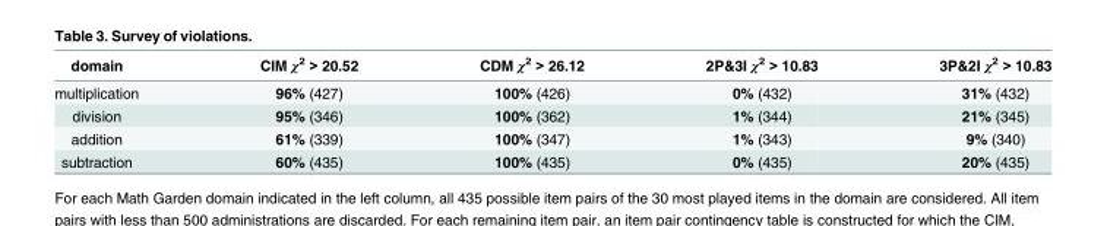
<table><thead><tr><td>domain</td><td>CIM χ<sup>2</sup> &gt; 20.52</td><td>CDM χ<sup>2</sup> &gt; 26.12</td><td>2P&amp;3I χ<sup>2</sup> &gt; 10.83</td><td>3P&amp;2I χ<sup>2</sup> &gt; 10.83</td></tr></thead><tbody><tr><td>multiplication</td><td>96% (427)</td><td>100% (426)</td><td>0% (432)</td><td>31% (432)</td></tr><tr><td>division</td><td>95% (346)</td><td>100% (362)</td><td>1% (344)</td><td>21% (345)</td></tr><tr><td>addition</td><td>61% (339)</td><td>100% (347)</td><td>1% (343)</td><td>9% (340)</td></tr><tr><td>subtraction</td><td>60% (435)</td><td>100% (435)</td><td>0% (435)</td><td>20% (435)</td></tr></tbody></table>